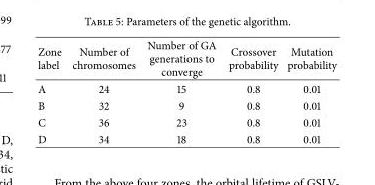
<table><thead><tr><td>Zone label</td><td>Number of chromosomes</td><td>Number of GA generations to converge</td><td>Crossover probability</td><td>Mutation probability</td></tr></thead><tbody><tr><td>A</td><td>24</td><td>15</td><td>0.8</td><td>0.01</td></tr><tr><td>B</td><td>32</td><td>9</td><td>0.8</td><td>0.01</td></tr><tr><td>C</td><td>36</td><td>23</td><td>0.8</td><td>0.01</td></tr><tr><td>D</td><td>34</td><td>18</td><td>0.8</td><td>0.01</td></tr></tbody></table>